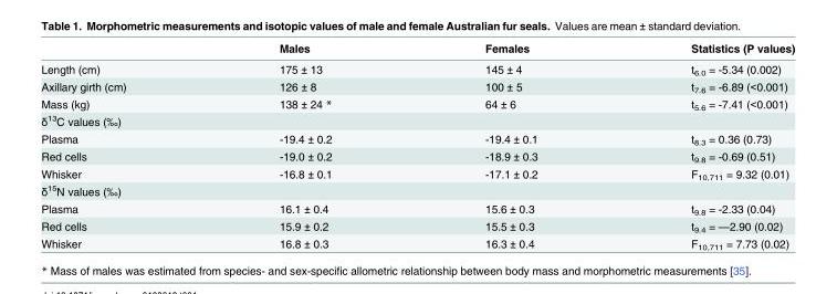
<table><thead><tr><td></td><td>Males</td><td>Females</td><td>Statistics (P values)</td></tr></thead><tbody><tr><td>Length (cm)</td><td>175 ± 13</td><td>145 ± 4</td><td>t<sub>6.0</sub> = -5.34 (0.002)</td></tr><tr><td>Axillary girth (cm)</td><td>126 ± 8</td><td>100 ± 5</td><td>t<sub>7.6</sub> = -6.89 (&lt;0.001)</td></tr><tr><td>Mass (kg)</td><td>138 ± 24 *</td><td>64 ± 6</td><td>t<sub>5.6</sub> = -7.41 (&lt;0.001)</td></tr><tr><td colspan="4">δ<sup>13</sup>C values (‰)</td></tr><tr><td>Plasma</td><td>-19.4 ± 0.2</td><td>-19.4 ± 0.1</td><td>t<sub>8.3</sub> = 0.36 (0.73)</td></tr><tr><td>Red cells</td><td>-19.0 ± 0.2</td><td>-18.9 ± 0.3</td><td>t<sub>9.8</sub> = -0.69 (0.51)</td></tr><tr><td>Whisker</td><td>-16.8 ± 0.1</td><td>-17.1 ± 0.2</td><td>F<sub>10,711</sub> = 9.32 (0.01)</td></tr><tr><td colspan="4">δ<sup>15</sup>N values (‰)</td></tr><tr><td>Plasma</td><td>16.1 ± 0.4</td><td>15.6 ± 0.3</td><td>t<sub>9.8</sub> = -2.33 (0.04)</td></tr><tr><td>Red cells</td><td>15.9 ± 0.2</td><td>15.5 ± 0.3</td><td>t<sub>9.4</sub> = —2.90 (0.02)</td></tr><tr><td>Whisker</td><td>16.8 ± 0.3</td><td>16.3 ± 0.4</td><td>F<sub>10,711</sub> = 7.73 (0.02)</td></tr></tbody></table>